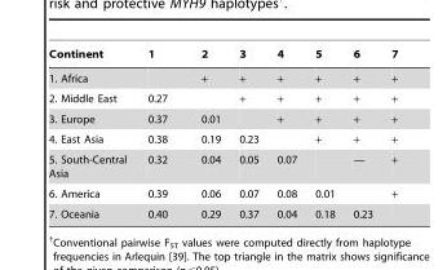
<table><thead><tr><td>Continent</td><td>1</td><td>2</td><td>3</td><td>4</td><td>5</td><td>6</td><td>7</td></tr></thead><tbody><tr><td>1. Africa</td><td></td><td>+</td><td>+</td><td>+</td><td>+</td><td>+</td><td>+</td></tr><tr><td>2. Middle East</td><td>0.27</td><td></td><td>+</td><td>+</td><td>+</td><td>+</td><td>+</td></tr><tr><td>3. Europe</td><td>0.37</td><td>0.01</td><td></td><td>+</td><td>+</td><td>+</td><td>+</td></tr><tr><td>4. East Asia</td><td>0.38</td><td>0.19</td><td>0.23</td><td></td><td>+</td><td>+</td><td>+</td></tr><tr><td>5. South-Central Asia</td><td>0.32</td><td>0.04</td><td>0.05</td><td>0.07</td><td></td><td>—</td><td>+</td></tr><tr><td>6. America</td><td>0.39</td><td>0.06</td><td>0.07</td><td>0.08</td><td>0.01</td><td></td><td>+</td></tr><tr><td>7. Oceania</td><td>0.40</td><td>0.29</td><td>0.37</td><td>0.04</td><td>0.18</td><td>0.23</td><td></td></tr></tbody></table>